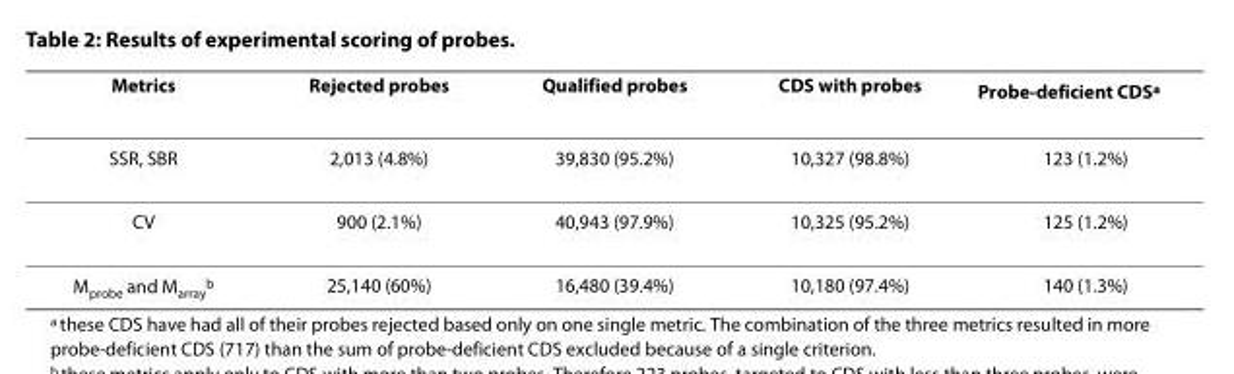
<table><thead><tr><td>Metrics</td><td>Rejected probes</td><td>Qualified probes</td><td>CDS with probes</td><td>Probe-deficient CDS<sup>a</sup></td></tr></thead><tbody><tr><td>SSR, SBR</td><td>2,013 (4.8%)</td><td>39,830 (95.2%)</td><td>10,327 (98.8%)</td><td>123 (1.2%)</td></tr><tr><td>CV</td><td>900 (2.1%)</td><td>40,943 (97.9%)</td><td>10,325 (95.2%)</td><td>125 (1.2%)</td></tr><tr><td>M<sub>probe</sub> and M<sub>array</sub><sup>b</sup></td><td>25,140 (60%)</td><td>16,480 (39.4%)</td><td>10,180 (97.4%)</td><td>140 (1.3%)</td></tr></tbody></table>